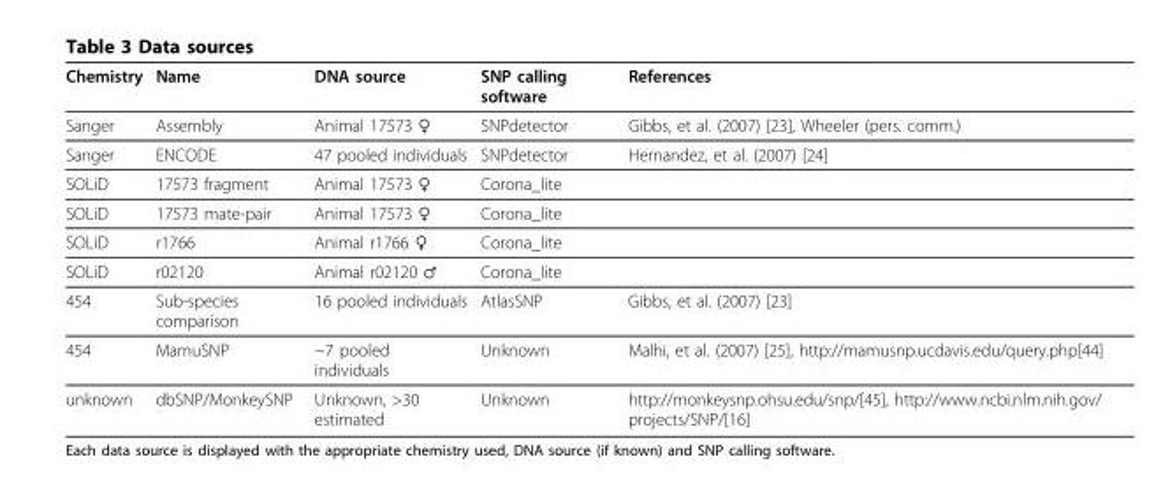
<table><thead><tr><td>Chemistry</td><td>Name</td><td>DNA source</td><td>SNP calling software</td><td>References</td></tr></thead><tbody><tr><td>Sanger</td><td>Assembly</td><td>Animal 17573 ♀</td><td>SNPdetector</td><td>Gibbs, et al. (2007) [23], Wheeler (pers. comm.)</td></tr><tr><td>Sanger</td><td>ENCODE</td><td>47 pooled individuals</td><td>SNPdetector</td><td>Hernandez, et al. (2007) [24]</td></tr><tr><td>SOLiD</td><td>17573 fragment</td><td>Animal 17573 ♀</td><td>Corona_lite</td><td></td></tr><tr><td>SOLiD</td><td>17573 mate-pair</td><td>Animal 17573 ♀</td><td>Corona_lite</td><td></td></tr><tr><td>SOLiD</td><td>r1766</td><td>Animal r1766 ♀</td><td>Corona_lite</td><td></td></tr><tr><td>SOLiD</td><td>r02120</td><td>Animal r02120 ♂</td><td>Corona_lite</td><td></td></tr><tr><td>454</td><td>Sub-species comparison</td><td>16 pooled individuals</td><td>AtlasSNP</td><td>Gibbs, et al. (2007) [23]</td></tr><tr><td>454</td><td>MamuSNP</td><td>~7 pooled individuals</td><td>Unknown</td><td>Malhi, et al. (2007) [25], http://mamusnp.ucdavis.edu/query.php[44]</td></tr><tr><td>unknown</td><td>dbSNP/MonkeySNP</td><td>Unknown, &gt;30 estimated</td><td>Unknown</td><td>http://monkeysnp.ohsu.edu/snp/[45], http://www.ncbi.nlm.nih.gov/ projects/SNP/[16]</td></tr></tbody></table>